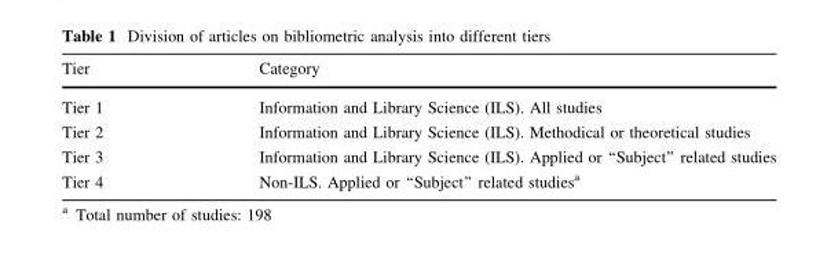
<table><thead><tr><td>Tier</td><td>Category</td></tr></thead><tbody><tr><td>Tier 1</td><td>Information and Library Science (ILS). All studies</td></tr><tr><td>Tier 2</td><td>Information and Library Science (ILS). Methodical or theoretical studies</td></tr><tr><td>Tier 3</td><td>Information and Library Science (ILS). Applied or ‘‘Subject’’ related studies</td></tr><tr><td>Tier 4</td><td>Non-ILS. Applied or ‘‘Subject’’ related studiesa</td></tr></tbody></table>